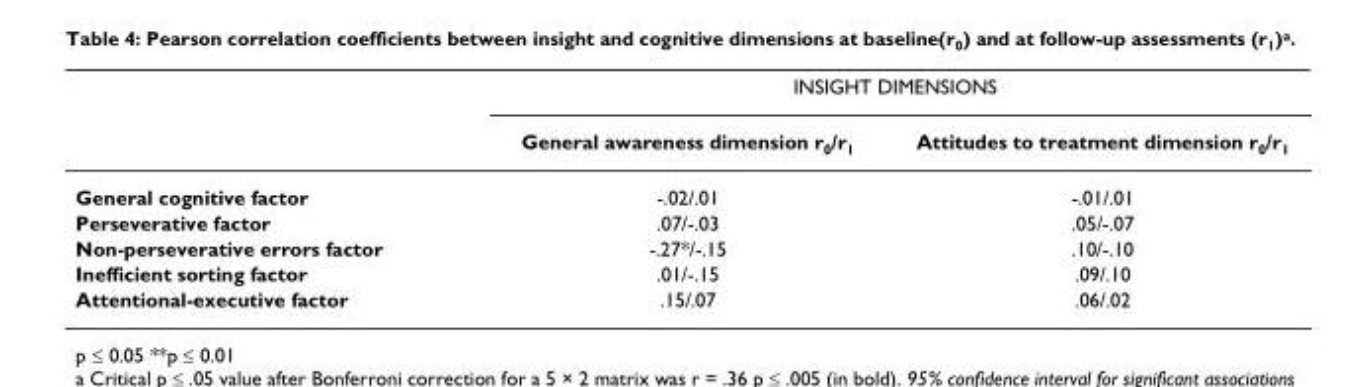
<table><thead><tr><td rowspan="2"></td><td colspan="2">INSIGHT DIMENSIONS</td></tr><tr><td>General awareness dimension r<sub>0</sub>/r<sub>1</sub></td><td>Attitudes to treatment dimension r<sub>0</sub>/r<sub>1</sub></td></tr></thead><tbody><tr><td>General cognitive factor</td><td>-.02/.01</td><td>-.01/.01</td></tr><tr><td>Perseverative factor</td><td>.07/-.03</td><td>.05/-.07</td></tr><tr><td>Non-perseverative errors factor</td><td>-.27*/-.15</td><td>.10/-.10</td></tr><tr><td>Inefficient sorting factor</td><td>.01/-.15</td><td>.09/.10</td></tr><tr><td>Attentional-executive factor</td><td>.15/.07</td><td>.06/.02</td></tr></tbody></table>